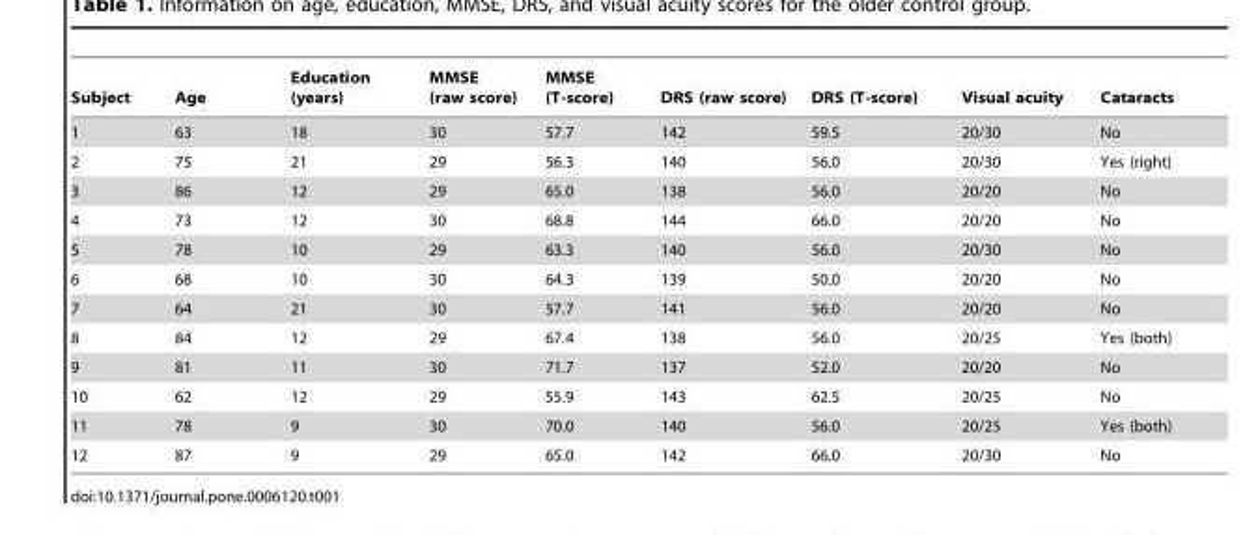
<table><thead><tr><td>Subject</td><td>Age</td><td>Education (years)</td><td>MMSE (raw score)</td><td>MMSE (T-score)</td><td>DRS (raw score)</td><td>DRS (T-score)</td><td>Visual acuity</td><td>Cataracts</td></tr></thead><tbody><tr><td>1</td><td>63</td><td>18</td><td>30</td><td>57.7</td><td>142</td><td>59.5</td><td>20/30</td><td>No</td></tr><tr><td>2</td><td>75</td><td>21</td><td>29</td><td>56.3</td><td>140</td><td>56.0</td><td>20/30</td><td>Yes (right)</td></tr><tr><td>3</td><td>86</td><td>12</td><td>29</td><td>65.0</td><td>138</td><td>56.0</td><td>20/20</td><td>No</td></tr><tr><td>4</td><td>73</td><td>12</td><td>30</td><td>68.8</td><td>144</td><td>66.0</td><td>20/20</td><td>No</td></tr><tr><td>5</td><td>78</td><td>10</td><td>29</td><td>63.3</td><td>140</td><td>56.0</td><td>20/30</td><td>No</td></tr><tr><td>6</td><td>68</td><td>10</td><td>30</td><td>64.3</td><td>139</td><td>50.0</td><td>20/20</td><td>No</td></tr><tr><td>7</td><td>64</td><td>21</td><td>30</td><td>57.7</td><td>141</td><td>56.0</td><td>20/20</td><td>No</td></tr><tr><td>8</td><td>84</td><td>12</td><td>29</td><td>67.4</td><td>138</td><td>56.0</td><td>20/25</td><td>Yes (both)</td></tr><tr><td>9</td><td>81</td><td>11</td><td>30</td><td>71.7</td><td>137</td><td>52.0</td><td>20/20</td><td>No</td></tr><tr><td>10</td><td>62</td><td>12</td><td>29</td><td>55.9</td><td>143</td><td>62.5</td><td>20/25</td><td>No</td></tr><tr><td>11</td><td>78</td><td>9</td><td>30</td><td>70.0</td><td>140</td><td>56.0</td><td>20/25</td><td>Yes (both)</td></tr><tr><td>12</td><td>87</td><td>9</td><td>29</td><td>65.0</td><td>142</td><td>66.0</td><td>20/30</td><td>No</td></tr></tbody></table>